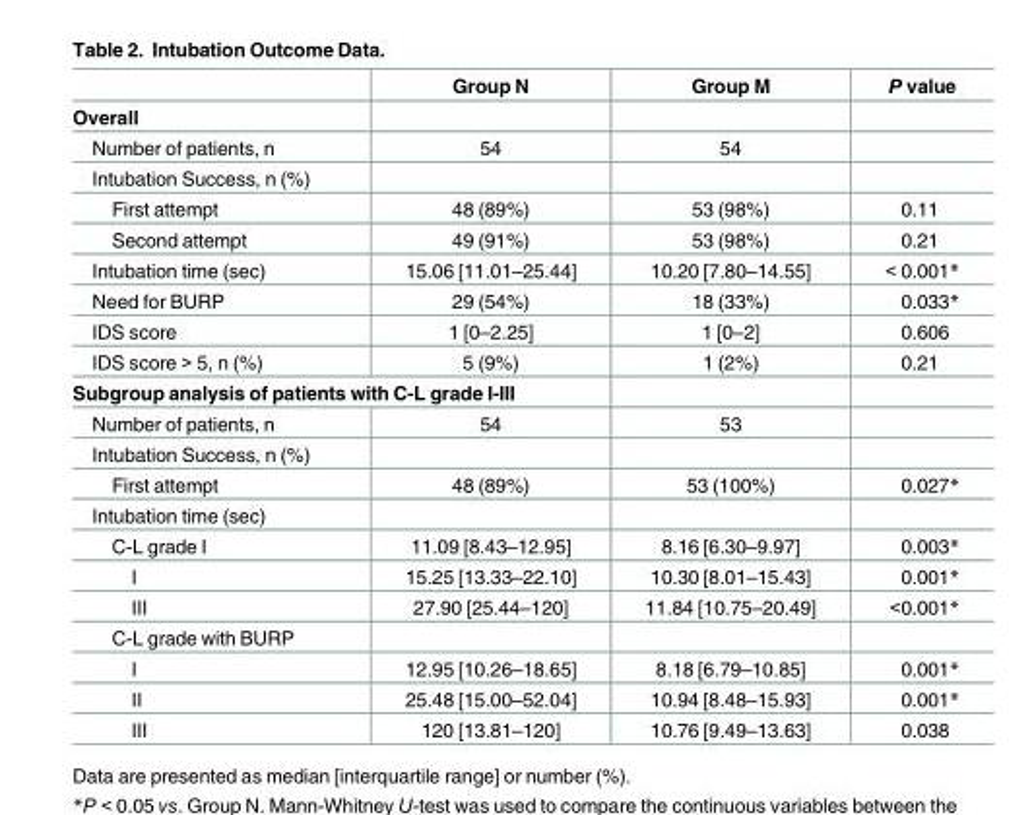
<table><thead><tr><td></td><td>Group N</td><td>Group M</td><td>P value</td></tr></thead><tbody><tr><td colspan="4">Overall</td></tr><tr><td>Number of patients, n</td><td>54</td><td>54</td><td></td></tr><tr><td colspan="4">Intubation Success, n (%)</td></tr><tr><td>First attempt</td><td>48 (89%)</td><td>53 (98%)</td><td>0.11</td></tr><tr><td>Second attempt</td><td>49 (91%)</td><td>53 (98%)</td><td>0.21</td></tr><tr><td>Intubation time (sec)</td><td>15.06 [11.01–25.44]</td><td>10.20 [7.80–14.55]</td><td>&lt; 0.001*</td></tr><tr><td>Need for BURP</td><td>29 (54%)</td><td>18 (33%)</td><td>0.033*</td></tr><tr><td>IDS score</td><td>1 [0–2.25]</td><td>1 [0–2]</td><td>0.606</td></tr><tr><td>IDS score &gt; 5, n (%)</td><td>5 (9%)</td><td>1 (2%)</td><td>0.21</td></tr><tr><td colspan="4">Subgroup analysis of patients with C-L grade I-III</td></tr><tr><td>Number of patients, n</td><td>54</td><td>53</td><td></td></tr><tr><td colspan="4">Intubation Success, n (%)</td></tr><tr><td>First attempt</td><td>48 (89%)</td><td>53 (100%)</td><td>0.027*</td></tr><tr><td colspan="4">Intubation time (sec)</td></tr><tr><td>C-L grade I</td><td>11.09 [8.43–12.95]</td><td>8.16 [6.30–9.97]</td><td>0.003*</td></tr><tr><td>I</td><td>15.25 [13.33–22.10]</td><td>10.30 [8.01–15.43]</td><td>0.001*</td></tr><tr><td>III</td><td>27.90 [25.44–120]</td><td>11.84 [10.75–20.49]</td><td>&lt;0.001*</td></tr><tr><td colspan="4">C-L grade with BURP</td></tr><tr><td>I</td><td>12.95 [10.26–18.65]</td><td>8.18 [6.79–10.85]</td><td>0.001*</td></tr><tr><td>II</td><td>25.48 [15.00–52.04]</td><td>10.94 [8.48–15.93]</td><td>0.001*</td></tr><tr><td>III</td><td>120 [13.81–120]</td><td>10.76 [9.49–13.63]</td><td>0.038</td></tr></tbody></table>